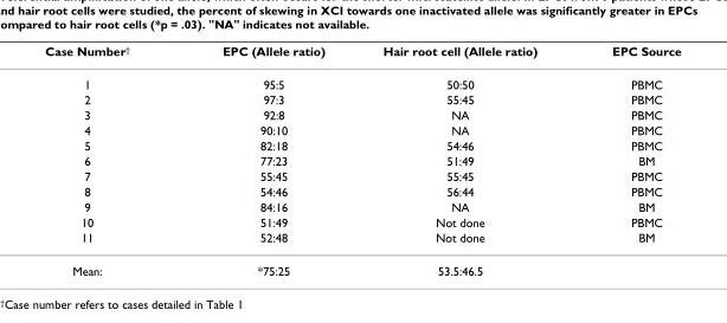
<table><thead><tr><td>Case Number†</td><td>EPC (Allele ratio)</td><td>Hair root cell (Allele ratio)</td><td>EPC Source</td></tr></thead><tbody><tr><td>1</td><td>95:5</td><td>50:50</td><td>PBMC</td></tr><tr><td>2</td><td>97:3</td><td>55:45</td><td>PBMC</td></tr><tr><td>3</td><td>92:8</td><td>NA</td><td>PBMC</td></tr><tr><td>4</td><td>90:10</td><td>NA</td><td>PBMC</td></tr><tr><td>5</td><td>82:18</td><td>54:46</td><td>PBMC</td></tr><tr><td>6</td><td>77:23</td><td>51:49</td><td>BM</td></tr><tr><td>7</td><td>55:45</td><td>55:45</td><td>PBMC</td></tr><tr><td>8</td><td>54:46</td><td>56:44</td><td>PBMC</td></tr><tr><td>9</td><td>84:16</td><td>NA</td><td>BM</td></tr><tr><td>10</td><td>51:49</td><td>Not done</td><td>PBMC</td></tr><tr><td>11</td><td>52:48</td><td>Not done</td><td>BM</td></tr><tr><td>Mean:</td><td>*75:25</td><td>53.5:46.5</td><td></td></tr></tbody></table>